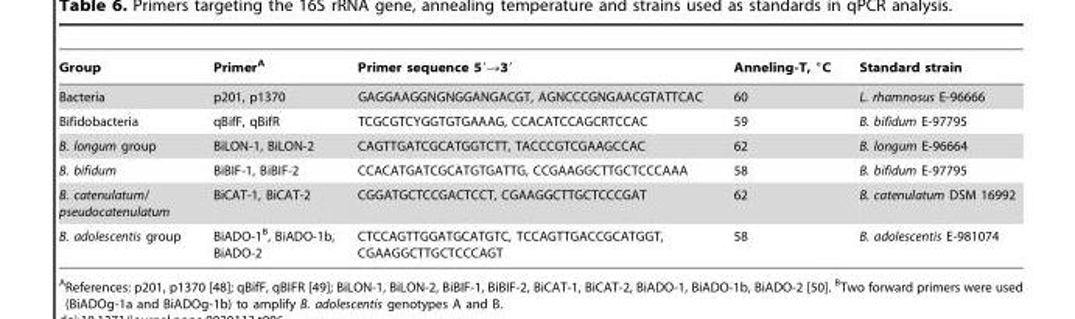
<table><thead><tr><td>Group</td><td>Primer<sup>A</sup></td><td>Primer sequence 5′→3′</td><td>Anneling-T, °C</td><td>Standard strain</td></tr></thead><tbody><tr><td>Bacteria</td><td>p201, p1370</td><td>GAGGAAGGNGNGGANGACGT, AGNCCCGNGAACGTATTCAC</td><td>60</td><td>L. rhamnosus E-96666</td></tr><tr><td>Bifidobacteria</td><td>qBifF, qBifR</td><td>TCGCGTCYGGTGTGAAAG, CCACATCCAGCRTCCAC</td><td>59</td><td>B. bifidum E-97795</td></tr><tr><td>B. longum group</td><td>BiLON-1, BiLON-2</td><td>CAGTTGATCGCATGGTCTT, TACCCGTCGAAGCCAC</td><td>62</td><td>B. longum E-96664</td></tr><tr><td>B. bifidum</td><td>BiBIF-1, BiBIF-2</td><td>CCACATGATCGCATGTGATTG, CCGAAGGCTTGCTCCCAAA</td><td>58</td><td>B. bifidum E-97795</td></tr><tr><td>B. catenulatum/ pseudocatenulatum</td><td>BiCAT-1, BiCAT-2</td><td>CGGATGCTCCGACTCCT, CGAAGGCTTGCTCCCGAT</td><td>62</td><td>B. catenulatum DSM 16992</td></tr><tr><td>B. adolescentis group</td><td>BiADO-1<sup>B</sup>, BiADO-1b, BiADO-2</td><td>CTCCAGTTGGATGCATGTC, TCCAGTTGACCGCATGGT, CGAAGGCTTGCTCCCAGT</td><td>58</td><td>B. adolescentis E-981074</td></tr></tbody></table>